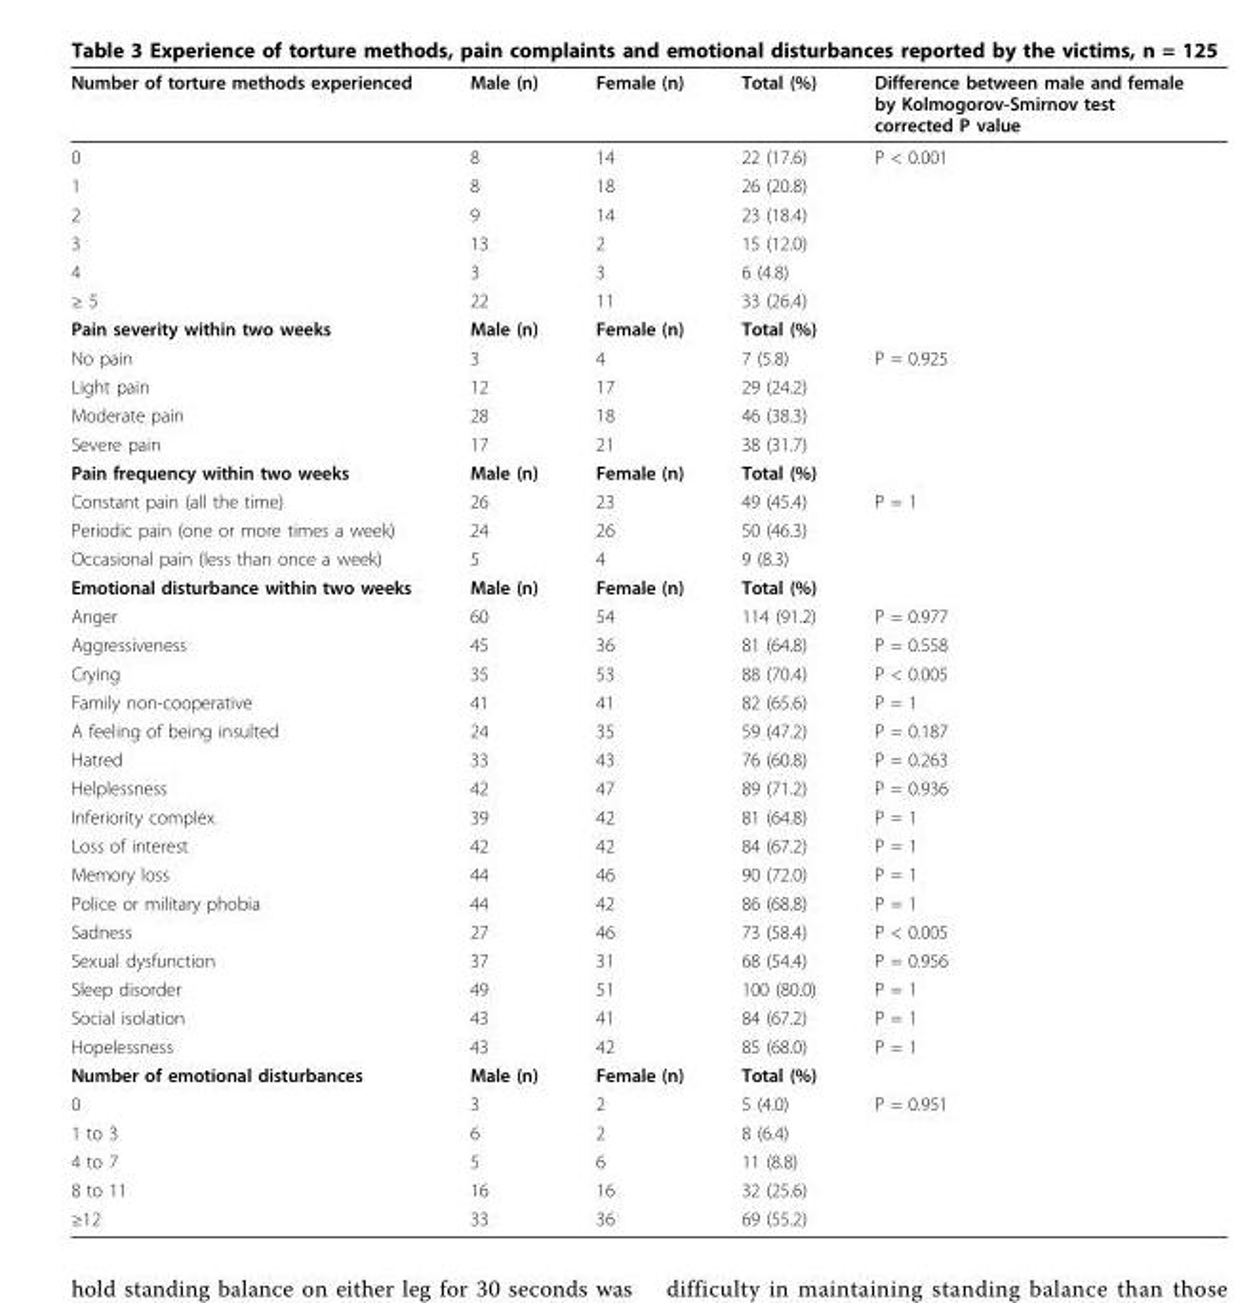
<table><thead><tr><td>Number of torture methods experienced</td><td>Male (n)</td><td>Female (n)</td><td>Total (%)</td><td>Difference between male and female by Kolmogorov-Smirnov test corrected P value</td></tr></thead><tbody><tr><td>0</td><td>8</td><td>14</td><td>22 (17.6)</td><td>P &lt; 0.001</td></tr><tr><td>1</td><td>8</td><td>18</td><td>26 (20.8)</td><td></td></tr><tr><td>2</td><td>9</td><td>14</td><td>23 (18.4)</td><td></td></tr><tr><td>3</td><td>13</td><td>2</td><td>15 (12.0)</td><td></td></tr><tr><td>4</td><td>3</td><td>3</td><td>6 (4.8)</td><td></td></tr><tr><td>≥ 5</td><td>22</td><td>11</td><td>33 (26.4)</td><td></td></tr><tr><td>Pain severity within two weeks</td><td>Male (n)</td><td>Female (n)</td><td>Total (%)</td><td></td></tr><tr><td>No pain</td><td>3</td><td>4</td><td>7 (5.8)</td><td>P = 0.925</td></tr><tr><td>Light pain</td><td>12</td><td>17</td><td>29 (24.2)</td><td></td></tr><tr><td>Moderate pain</td><td>28</td><td>18</td><td>46 (38.3)</td><td></td></tr><tr><td>Severe pain</td><td>17</td><td>21</td><td>38 (31.7)</td><td></td></tr><tr><td>Pain frequency within two weeks</td><td>Male (n)</td><td>Female (n)</td><td>Total (%)</td><td></td></tr><tr><td>Constant pain (all the time)</td><td>26</td><td>23</td><td>49 (45.4)</td><td>P = 1</td></tr><tr><td>Periodic pain (one or more times a week)</td><td>24</td><td>26</td><td>50 (46.3)</td><td></td></tr><tr><td>Occasional pain (less than once a week)</td><td>5</td><td>4</td><td>9 (8.3)</td><td></td></tr><tr><td>Emotional disturbance within two weeks</td><td>Male (n)</td><td>Female (n)</td><td>Total (%)</td><td></td></tr><tr><td>Anger</td><td>60</td><td>54</td><td>114 (91.2)</td><td>P = 0.977</td></tr><tr><td>Aggressiveness</td><td>45</td><td>36</td><td>81 (64.8)</td><td>P = 0.558</td></tr><tr><td>Crying</td><td>35</td><td>53</td><td>88 (70.4)</td><td>P &lt; 0.005</td></tr><tr><td>Family non-cooperative</td><td>41</td><td>41</td><td>82 (65.6)</td><td>P = 1</td></tr><tr><td>A feeling of being insulted</td><td>24</td><td>35</td><td>59 (47.2)</td><td>P = 0.187</td></tr><tr><td>Hatred</td><td>33</td><td>43</td><td>76 (60.8)</td><td>P = 0.263</td></tr><tr><td>Helplessness</td><td>42</td><td>47</td><td>89 (71.2)</td><td>P = 0.936</td></tr><tr><td>Inferiority complex</td><td>39</td><td>42</td><td>81 (64.8)</td><td>P = 1</td></tr><tr><td>Loss of interest</td><td>42</td><td>42</td><td>84 (67.2)</td><td>P = 1</td></tr><tr><td>Memory loss</td><td>44</td><td>46</td><td>90 (72.0)</td><td>P = 1</td></tr><tr><td>Police or military phobia</td><td>44</td><td>42</td><td>86 (68.8)</td><td>P = 1</td></tr><tr><td>Sadness</td><td>27</td><td>46</td><td>73 (58.4)</td><td>P &lt; 0.005</td></tr><tr><td>Sexual dysfunction</td><td>37</td><td>31</td><td>68 (54.4)</td><td>P = 0.956</td></tr><tr><td>Sleep disorder</td><td>49</td><td>51</td><td>100 (80.0)</td><td>P = 1</td></tr><tr><td>Social isolation</td><td>43</td><td>41</td><td>84 (67.2)</td><td>P = 1</td></tr><tr><td>Hopelessness</td><td>43</td><td>42</td><td>85 (68.0)</td><td>P = 1</td></tr><tr><td>Number of emotional disturbances</td><td>Male (n)</td><td>Female (n)</td><td>Total (%)</td><td></td></tr><tr><td>0</td><td>3</td><td>2</td><td>5 (4.0)</td><td>P = 0.951</td></tr><tr><td>1 to 3</td><td>6</td><td>2</td><td>8 (6.4)</td><td></td></tr><tr><td>4 to 7</td><td>5</td><td>6</td><td>11 (8.8)</td><td></td></tr><tr><td>8 to 11</td><td>16</td><td>16</td><td>32 (25.6)</td><td></td></tr><tr><td>≥12</td><td>33</td><td>36</td><td>69 (55.2)</td><td></td></tr></tbody></table>